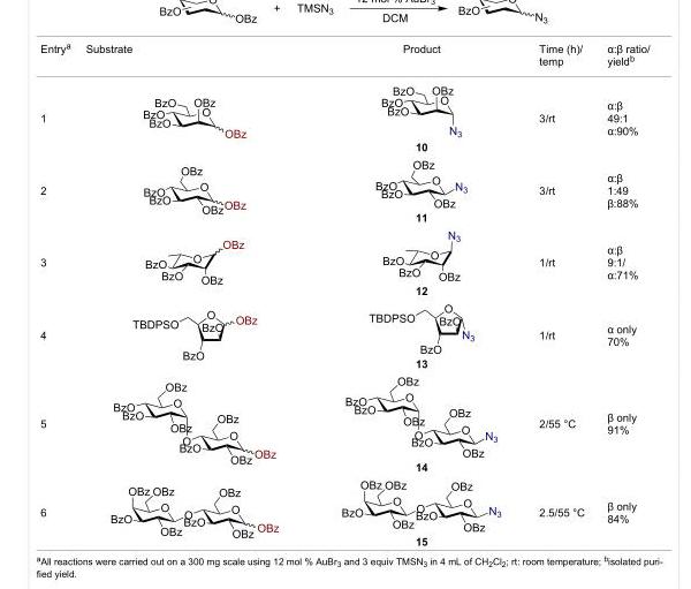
<table><tbody><tr><td>Entry<sup>a</sup></td><td>Substrate</td><td>Product</td><td>Time (h)/ temp</td><td>α:β ratio/ yield<sup>b</sup></td></tr><tr><td>1</td><td></td><td>10</td><td>3/rt</td><td>α:β 49:1 α:90%</td></tr><tr><td>2</td><td></td><td>11</td><td>3/rt</td><td>α:β 1:49 β:88%</td></tr><tr><td>3</td><td></td><td>12</td><td>1/rt</td><td>α:β 9:1/ α:71%</td></tr><tr><td>4</td><td></td><td>13</td><td>1/rt</td><td>α only 70%</td></tr><tr><td>5</td><td></td><td>14</td><td>2/55 °C</td><td>β only 91%</td></tr><tr><td>6</td><td></td><td>15</td><td>2.5/55 °C</td><td>β only 84%</td></tr></tbody></table>